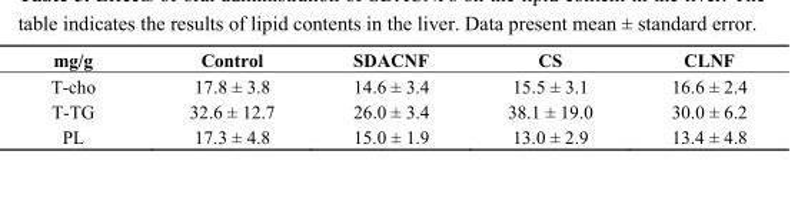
<table><thead><tr><td>mg/g</td><td>Control</td><td>SDACNF</td><td>CS</td><td>CLNF</td></tr></thead><tbody><tr><td>T-cho</td><td>17.8 ± 3.8</td><td>14.6 ± 3.4</td><td>15.5 ± 3.1</td><td>16.6 ± 2.4</td></tr><tr><td>T-TG</td><td>32.6 ± 12.7</td><td>26.0 ± 3.4</td><td>38.1 ± 19.0</td><td>30.0 ± 6.2</td></tr><tr><td>PL</td><td>17.3 ± 4.8</td><td>15.0 ± 1.9</td><td>13.0 ± 2.9</td><td>13.4 ± 4.8</td></tr></tbody></table>